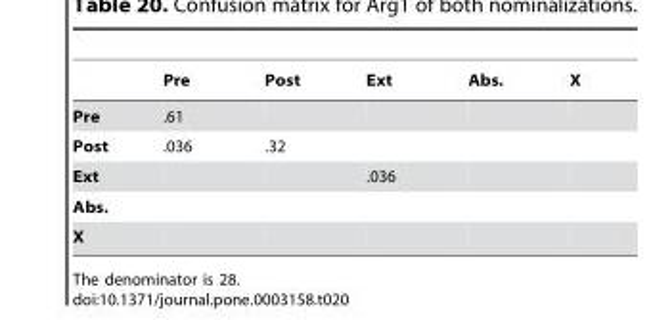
<table><thead><tr><td></td><td>Pre</td><td>Post</td><td>Ext</td><td>Abs.</td><td>X</td></tr></thead><tbody><tr><td>Pre</td><td>.61</td><td></td><td></td><td></td><td></td></tr><tr><td>Post</td><td>.036</td><td>.32</td><td></td><td></td><td></td></tr><tr><td>Ext</td><td></td><td></td><td>.036</td><td></td><td></td></tr><tr><td colspan="6">Abs.</td></tr><tr><td>X</td><td></td><td></td><td></td><td></td><td></td></tr></tbody></table>